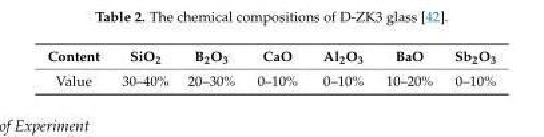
<table><thead><tr><td>Content</td><td>SiO<sub>2</sub></td><td>B<sub>2</sub>O<sub>3</sub></td><td>CaO</td><td>Al<sub>2</sub>O<sub>3</sub></td><td>BaO</td><td>Sb<sub>2</sub>O<sub>3</sub></td></tr></thead><tbody><tr><td>Value</td><td>30–40%</td><td>20–30%</td><td>0–10%</td><td>0–10%</td><td>10–20%</td><td>0–10%</td></tr></tbody></table>